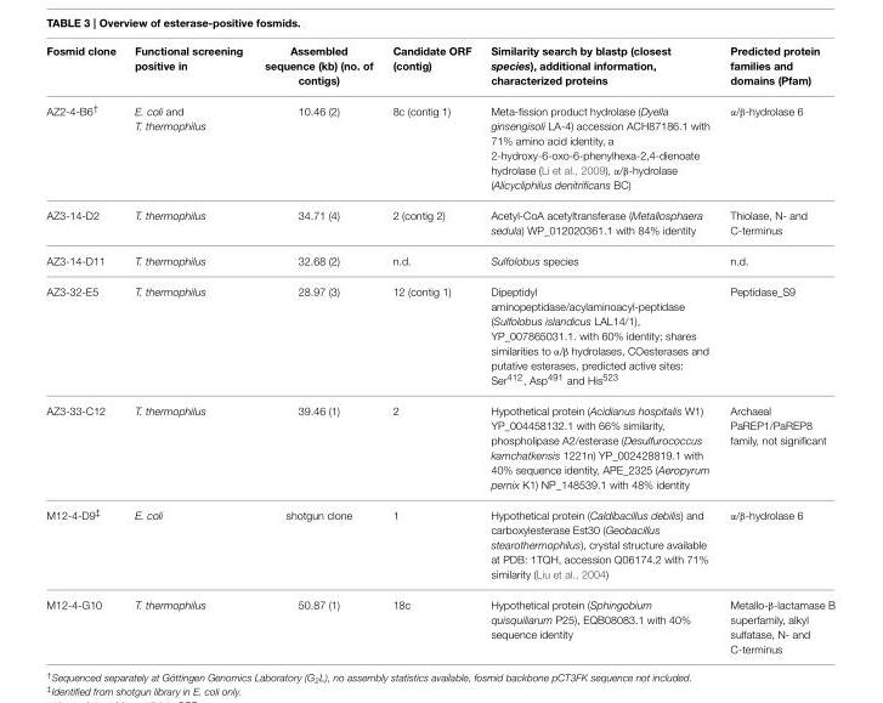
<table><thead><tr><td>Fosmid clone</td><td>Functional screening positive in</td><td>Assembled sequence (kb) (no. of contigs)</td><td>Candidate ORF (contig)</td><td>Similarity search by blastp (closest species), additional information, characterized proteins</td><td>Predicted protein families and domains (Pfam)</td></tr></thead><tbody><tr><td>AZ2-4-B6<sup>†</sup></td><td>E. coli and T. thermophilus</td><td>10.46 (2)</td><td>8c (contig 1)</td><td>Meta-fission product hydrolase (Dyella ginsengisoli LA-4) accession ACH87186.1 with 71% amino acid identity, a 2-hydroxy-6-oxo-6-phenylhexa-2,4-dienoate hydrolase (Li et al., 2009), α/β-hydrolase (Alicycliphilus denitrificans BC)</td><td>α/β-hydrolase 6</td></tr><tr><td>AZ3-14-D2</td><td>T. thermophilus</td><td>34.71 (4)</td><td>2 (contig 2)</td><td>Acetyl-CoA acetyltransferase (Metallosphaera sedula) WP_012020361.1 with 84% identity</td><td>Thiolase, N- and C-terminus</td></tr><tr><td>AZ3-14-D11</td><td>T. thermophilus</td><td>32.68 (2)</td><td>n.d.</td><td>Sulfolobus species</td><td>n.d.</td></tr><tr><td>AZ3-32-E5</td><td>T. thermophilus</td><td>28.97 (3)</td><td>12 (contig 1)</td><td>Dipeptidyl aminopeptidase/acylaminoacyl-peptidase (Sulfolobus islandicus LAL14/1), YP_007865031.1. with 60% identity; shares similarities to α/β hydrolases, COesterases and putative esterases, predicted active sites: Ser<sup>412</sup>, Asp<sup>491</sup> and His<sup>523</sup></td><td>Peptidase_S9</td></tr><tr><td>AZ3-33-C12</td><td>T. thermophilus</td><td>39.46 (1)</td><td>2</td><td>Hypothetical protein (Acidianus hospitalis W1) YP_004458132.1 with 66% similarity, phospholipase A2/esterase (Desulfurococcus kamchatkensis 1221n) YP_002428819.1 with 40% sequence identity, APE_2325 (Aeropyrum pernix K1) NP_148539.1 with 48% identity</td><td>Archaeal PaREP1/PaREP8 family, not significant</td></tr><tr><td>M12-4-D9<sup>‡</sup></td><td>E. coli</td><td>shotgun clone</td><td>1</td><td>Hypothetical protein (Caldibacillus debilis) and carboxylesterase Est30 (Geobacillus stearothermophilus), crystal structure available at PDB: 1TQH, accession Q06174.2 with 71% similarity (Liu et al., 2004)</td><td>α/β-hydrolase 6</td></tr><tr><td>M12-4-G10</td><td>T. thermophilus</td><td>50.87 (1)</td><td>18c</td><td>Hypothetical protein (Sphingobium quisquiliarum P25), EQB08083.1 with 40% sequence identity</td><td>Metallo-β-lactamase B superfamily, alkyl sulfatase, N- and C-terminus</td></tr></tbody></table>